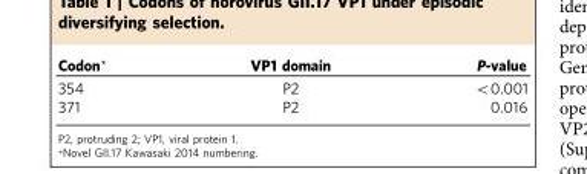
<table><thead><tr><td>Codon*</td><td>VP1 domain</td><td>P-value</td></tr></thead><tbody><tr><td>354</td><td>P2</td><td>&lt;0.001</td></tr><tr><td>371</td><td>P2</td><td>0.016</td></tr></tbody></table>